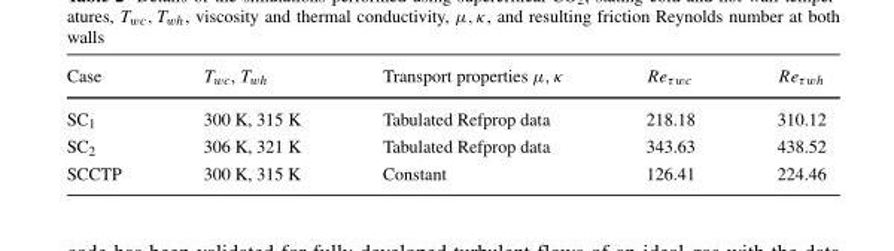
<table><thead><tr><td>Case</td><td>T<sub>wc</sub>, T<sub>wh</sub></td><td>Transport properties μ, κ</td><td>Re<sub>τwc</sub></td><td>Re<sub>τwh</sub></td></tr></thead><tbody><tr><td>SC<sub>1</sub></td><td>300 K, 315 K</td><td>Tabulated Refprop data</td><td>218.18</td><td>310.12</td></tr><tr><td>SC<sub>2</sub></td><td>306 K, 321 K</td><td>Tabulated Refprop data</td><td>343.63</td><td>438.52</td></tr><tr><td>SCCTP</td><td>300 K, 315 K</td><td>Constant</td><td>126.41</td><td>224.46</td></tr></tbody></table>